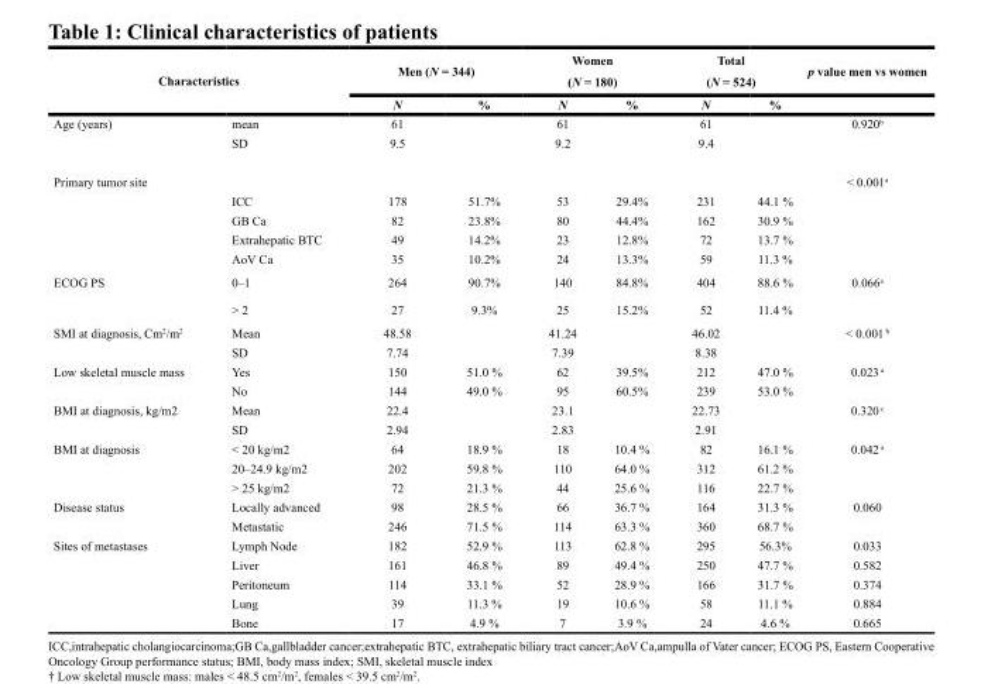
<table><thead><tr><td rowspan="2" colspan="2">Characteristics</td><td colspan="2">Men (N = 344)</td><td colspan="2">Women (N = 180)</td><td colspan="2">Total (N = 524)</td><td rowspan="3">p value men vs women 0.920<sup>b</sup></td></tr><tr><td rowspan="2">N 61</td><td rowspan="2">%</td><td rowspan="2">N 61</td><td rowspan="2">%</td><td rowspan="2">N 61</td><td rowspan="2">%</td></tr><tr><td>Age (years)</td><td>mean</td></tr></thead><tbody><tr><td></td><td>SD</td><td>9.5</td><td></td><td>9.2</td><td></td><td>9.4</td><td></td><td></td></tr><tr><td rowspan="5">Primary tumor site</td><td></td><td></td><td></td><td></td><td></td><td></td><td></td><td>&lt; 0.001<sup>a</sup></td></tr><tr><td>ICC</td><td>178</td><td>51.7%</td><td>53</td><td>29.4%</td><td>231</td><td>44.1 %</td><td></td></tr><tr><td>GB Ca</td><td>82</td><td>23.8%</td><td>80</td><td>44.4%</td><td>162</td><td>30.9 %</td><td></td></tr><tr><td>Extrahepatic BTC</td><td>49</td><td>14.2%</td><td>23</td><td>12.8%</td><td>72</td><td>13.7 %</td><td></td></tr><tr><td>AoV Ca</td><td>35</td><td>10.2%</td><td>24</td><td>13.3%</td><td>59</td><td>11.3 %</td><td></td></tr><tr><td rowspan="2">ECOG PS</td><td>0–1</td><td>264</td><td>90.7%</td><td>140</td><td>84.8%</td><td>404</td><td>88.6 %</td><td>0.066<sup>a</sup></td></tr><tr><td>&gt; 2</td><td>27</td><td>9.3%</td><td>25</td><td>15.2%</td><td>52</td><td>11.4 %</td><td></td></tr><tr><td rowspan="2">SMI at diagnosis, Cm<sup>2</sup>/m<sup>2</sup></td><td>Mean</td><td>48.58</td><td></td><td>41.24</td><td></td><td>46.02</td><td></td><td>&lt; 0.001 <sup>b</sup></td></tr><tr><td>SD</td><td>7.74</td><td></td><td>7.39</td><td></td><td>8.38</td><td></td><td></td></tr><tr><td rowspan="2">Low skeletal muscle mass</td><td>Yes</td><td>150</td><td>51.0 %</td><td>62</td><td>39.5%</td><td>212</td><td>47.0 %</td><td>0.023 <sup>a</sup></td></tr><tr><td>No</td><td>144</td><td>49.0 %</td><td>95</td><td>60.5%</td><td>239</td><td>53.0 %</td><td></td></tr><tr><td rowspan="2">BMI at diagnosis, kg/m2</td><td>Mean</td><td>22.4</td><td></td><td>23.1</td><td></td><td>22.73</td><td></td><td>0.320 <sup>c</sup></td></tr><tr><td>SD</td><td>2.94</td><td></td><td>2.83</td><td></td><td>2.91</td><td></td><td></td></tr><tr><td rowspan="3">BMI at diagnosis</td><td>&lt; 20 kg/m2</td><td>64</td><td>18.9 %</td><td>18</td><td>10.4 %</td><td>82</td><td>16.1 %</td><td>0.042 <sup>a</sup></td></tr><tr><td>20–24.9 kg/m2</td><td>202</td><td>59.8 %</td><td>110</td><td>64.0 %</td><td>312</td><td>61.2 %</td><td></td></tr><tr><td>&gt; 25 kg/m2</td><td>72</td><td>21.3 %</td><td>44</td><td>25.6 %</td><td>116</td><td>22.7 %</td><td></td></tr><tr><td rowspan="2">Disease status</td><td>Locally advanced</td><td>98</td><td>28.5 %</td><td>66</td><td>36.7 %</td><td>164</td><td>31.3 %</td><td>0.060</td></tr><tr><td>Metastatic</td><td>246</td><td>71.5 %</td><td>114</td><td>63.3 %</td><td>360</td><td>68.7 %</td><td></td></tr><tr><td rowspan="5">Sites of metastases</td><td>Lymph Node</td><td>182</td><td>52.9 %</td><td>113</td><td>62.8 %</td><td>295</td><td>56.3%</td><td>0.033</td></tr><tr><td>Liver</td><td>161</td><td>46.8 %</td><td>89</td><td>49.4 %</td><td>250</td><td>47.7 %</td><td>0.582</td></tr><tr><td>Peritoneum</td><td>114</td><td>33.1 %</td><td>52</td><td>28.9 %</td><td>166</td><td>31.7 %</td><td>0.374</td></tr><tr><td>Lung</td><td>39</td><td>11.3 %</td><td>19</td><td>10.6 %</td><td>58</td><td>11.1 %</td><td>0.884</td></tr><tr><td>Bone</td><td>17</td><td>4.9 %</td><td>7</td><td>3.9 %</td><td>24</td><td>4.6 %</td><td>0.665</td></tr></tbody></table>